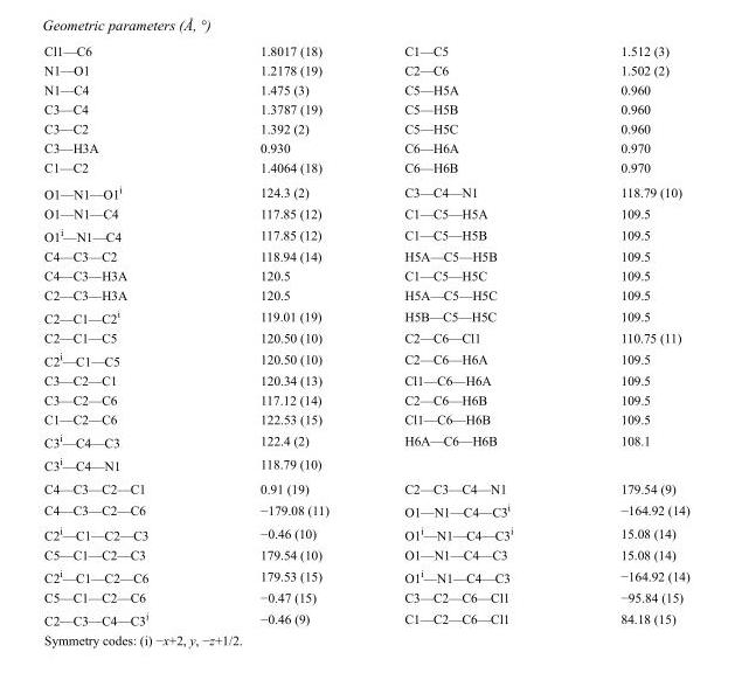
<table><tbody><tr><td>Cl1—C6</td><td>1.8017 (18)</td><td>C1—C5</td><td>1.512 (3)</td></tr><tr><td>N1—O1</td><td>1.2178 (19)</td><td>C2—C6</td><td>1.502 (2)</td></tr><tr><td>N1—C4</td><td>1.475 (3)</td><td>C5—H5A</td><td>0.960</td></tr><tr><td>C3—C4</td><td>1.3787 (19)</td><td>C5—H5B</td><td>0.960</td></tr><tr><td>C3—C2</td><td>1.392 (2)</td><td>C5—H5C</td><td>0.960</td></tr><tr><td>C3—H3A</td><td>0.930</td><td>C6—H6A</td><td>0.970</td></tr><tr><td>C1—C2</td><td>1.4064 (18)</td><td>C6—H6B</td><td>0.970</td></tr><tr><td>O1—N1—O1<sup>i</sup></td><td>124.3 (2)</td><td>C3—C4—N1</td><td>118.79 (10)</td></tr><tr><td>O1—N1—C4</td><td>117.85 (12)</td><td>C1—C5—H5A</td><td>109.5</td></tr><tr><td>O1<sup>i</sup>—N1—C4</td><td>117.85 (12)</td><td>C1—C5—H5B</td><td>109.5</td></tr><tr><td>C4—C3—C2</td><td>118.94 (14)</td><td>H5A—C5—H5B</td><td>109.5</td></tr><tr><td>C4—C3—H3A</td><td>120.5</td><td>C1—C5—H5C</td><td>109.5</td></tr><tr><td>C2—C3—H3A</td><td>120.5</td><td>H5A—C5—H5C</td><td>109.5</td></tr><tr><td>C2—C1—C2<sup>i</sup></td><td>119.01 (19)</td><td>H5B—C5—H5C</td><td>109.5</td></tr><tr><td>C2—C1—C5</td><td>120.50 (10)</td><td>C2—C6—Cl1</td><td>110.75 (11)</td></tr><tr><td>C2<sup>i</sup>—C1—C5</td><td>120.50 (10)</td><td>C2—C6—H6A</td><td>109.5</td></tr><tr><td>C3—C2—C1</td><td>120.34 (13)</td><td>Cl1—C6—H6A</td><td>109.5</td></tr><tr><td>C3—C2—C6</td><td>117.12 (14)</td><td>C2—C6—H6B</td><td>109.5</td></tr><tr><td>C1—C2—C6</td><td>122.53 (15)</td><td>Cl1—C6—H6B</td><td>109.5</td></tr><tr><td>C3<sup>i</sup>—C4—C3</td><td>122.4 (2)</td><td>H6A—C6—H6B</td><td>108.1</td></tr><tr><td>C3<sup>i</sup>—C4—N1</td><td>118.79 (10)</td><td></td><td></td></tr><tr><td>C4—C3—C2—C1</td><td>0.91 (19)</td><td>C2—C3—C4—N1</td><td>179.54 (9)</td></tr><tr><td>C4—C3—C2—C6</td><td>−179.08 (11)</td><td>O1—N1—C4—C3<sup>i</sup></td><td>−164.92 (14)</td></tr><tr><td>C2<sup>i</sup>—C1—C2—C3</td><td>−0.46 (10)</td><td>O1<sup>i</sup>—N1—C4—C3<sup>i</sup></td><td>15.08 (14)</td></tr><tr><td>C5—C1—C2—C3</td><td>179.54 (10)</td><td>O1—N1—C4—C3</td><td>15.08 (14)</td></tr><tr><td>C2<sup>i</sup>—C1—C2—C6</td><td>179.53 (15)</td><td>O1<sup>i</sup>—N1—C4—C3</td><td>−164.92 (14)</td></tr><tr><td>C5—C1—C2—C6</td><td>−0.47 (15)</td><td>C3—C2—C6—Cl1</td><td>−95.84 (15)</td></tr><tr><td>C2—C3—C4—C3<sup>i</sup></td><td>−0.46 (9)</td><td>C1—C2—C6—Cl1</td><td>84.18 (15)</td></tr></tbody></table>